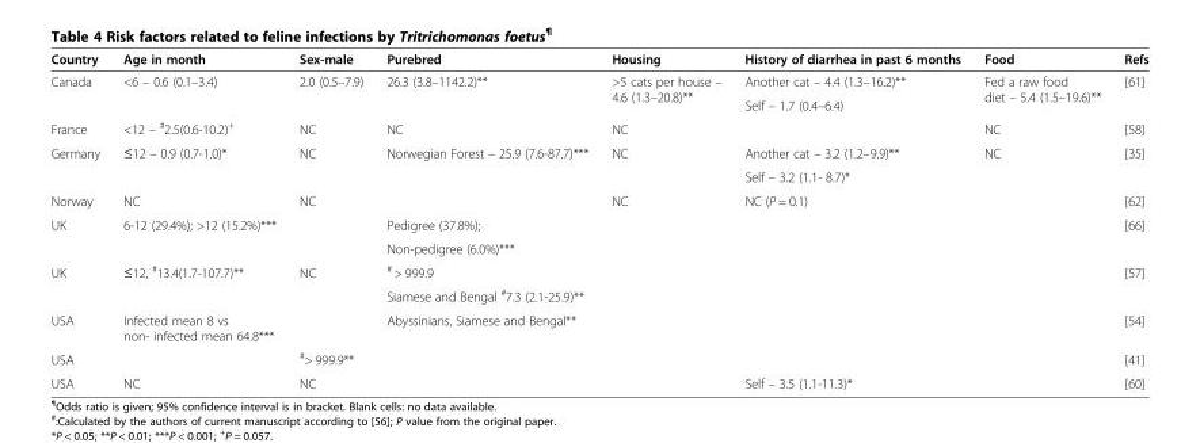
<table><thead><tr><td>Country</td><td>Age in month</td><td>Sex-male</td><td>Purebred</td><td>Housing</td><td>History of diarrhea in past 6 months</td><td>Food</td><td>Refs</td></tr></thead><tbody><tr><td rowspan="2">Canada</td><td rowspan="2">&lt;6 – 0.6 (0.1–3.4)</td><td rowspan="2">2.0 (0.5–7.9)</td><td rowspan="2">26.3 (3.8–1142.2)**</td><td rowspan="2">&gt;5 cats per house – 4.6 (1.3–20.8)**</td><td>Another cat – 4.4 (1.3–16.2)**</td><td rowspan="2">Fed a raw food diet – 5.4 (1.5–19.6)**</td><td rowspan="2">[61]</td></tr><tr><td>Self – 1.7 (0.4–6.4)</td></tr><tr><td>France</td><td>&lt;12 – <sup>#</sup>2.5(0.6-10.2)<sup>+</sup></td><td>NC</td><td>NC</td><td>NC</td><td></td><td>NC</td><td>[58]</td></tr><tr><td rowspan="2">Germany</td><td rowspan="2">≤12 – 0.9 (0.7-1.0)*</td><td rowspan="2">NC</td><td rowspan="2">Norwegian Forest – 25.9 (7.6-87.7)***</td><td rowspan="2">NC</td><td>Another cat – 3.2 (1.2–9.9)**</td><td rowspan="2">NC</td><td rowspan="2">[35]</td></tr><tr><td>Self – 3.2 (1.1- 8.7)*</td></tr><tr><td>Norway</td><td>NC</td><td>NC</td><td></td><td>NC</td><td>NC (P = 0.1)</td><td></td><td>[62]</td></tr><tr><td rowspan="2">UK</td><td rowspan="2">6-12 (29.4%); &gt;12 (15.2%)***</td><td rowspan="2"></td><td>Pedigree (37.8%);</td><td rowspan="2"></td><td rowspan="2"></td><td rowspan="2"></td><td rowspan="2">[66]</td></tr><tr><td>Non-pedigree (6.0%)***</td></tr><tr><td rowspan="2">UK</td><td rowspan="2">≤12, <sup>#</sup>13.4(1.7-107.7)**</td><td rowspan="2">NC</td><td><sup>#</sup> &gt; 999.9</td><td rowspan="2"></td><td rowspan="2"></td><td rowspan="2"></td><td rowspan="2">[57]</td></tr><tr><td>Siamese and Bengal <sup>#</sup>7.3 (2.1-25.9)**</td></tr><tr><td>USA</td><td>Infected mean 8 vs non- infected mean 64.8***</td><td></td><td>Abyssinians, Siamese and Bengal**</td><td></td><td></td><td></td><td>[54]</td></tr><tr><td>USA</td><td></td><td><sup>#</sup>&gt; 999.9**</td><td></td><td></td><td></td><td></td><td>[41]</td></tr><tr><td>USA</td><td>NC</td><td>NC</td><td></td><td></td><td>Self – 3.5 (1.1-11.3)*</td><td></td><td>[60]</td></tr></tbody></table>